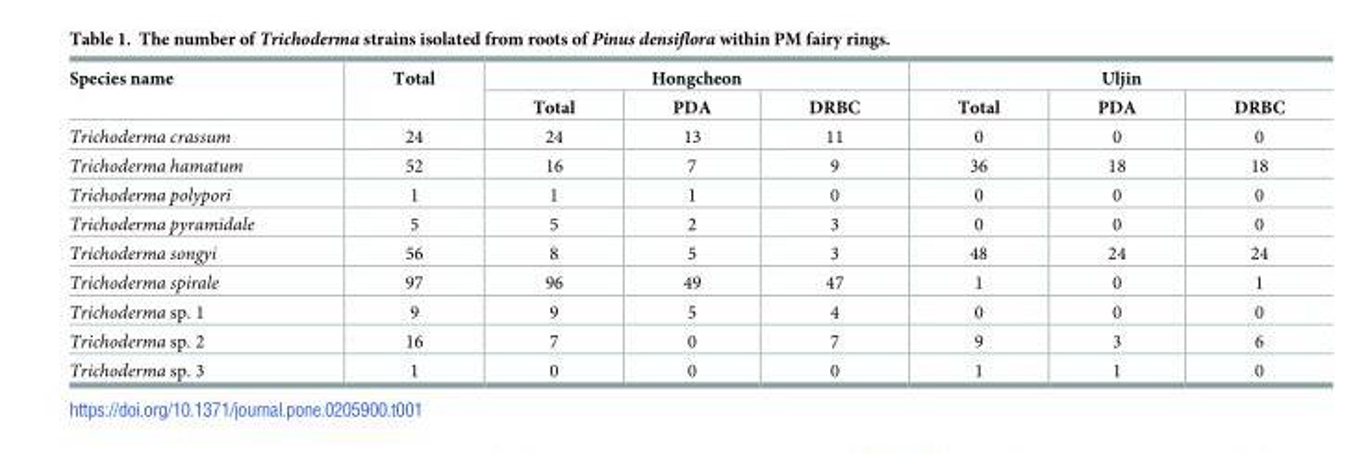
<table><thead><tr><td rowspan="2">Species name</td><td rowspan="2">Total</td><td colspan="3">Hongcheon</td><td colspan="3">Uljin</td></tr><tr><td>Total</td><td>PDA</td><td>DRBC</td><td>Total</td><td>PDA</td><td>DRBC</td></tr></thead><tbody><tr><td>Trichoderma crassum</td><td>24</td><td>24</td><td>13</td><td>11</td><td>0</td><td>0</td><td>0</td></tr><tr><td>Trichoderma hamatum</td><td>52</td><td>16</td><td>7</td><td>9</td><td>36</td><td>18</td><td>18</td></tr><tr><td>Trichoderma polypori</td><td>1</td><td>1</td><td>1</td><td>0</td><td>0</td><td>0</td><td>0</td></tr><tr><td>Trichoderma pyramidale</td><td>5</td><td>5</td><td>2</td><td>3</td><td>0</td><td>0</td><td>0</td></tr><tr><td>Trichoderma songyi</td><td>56</td><td>8</td><td>5</td><td>3</td><td>48</td><td>24</td><td>24</td></tr><tr><td>Trichoderma spirale</td><td>97</td><td>96</td><td>49</td><td>47</td><td>1</td><td>0</td><td>1</td></tr><tr><td>Trichoderma sp. 1</td><td>9</td><td>9</td><td>5</td><td>4</td><td>0</td><td>0</td><td>0</td></tr><tr><td>Trichoderma sp. 2</td><td>16</td><td>7</td><td>0</td><td>7</td><td>9</td><td>3</td><td>6</td></tr><tr><td>Trichoderma sp. 3</td><td>1</td><td>0</td><td>0</td><td>0</td><td>1</td><td>1</td><td>0</td></tr></tbody></table>